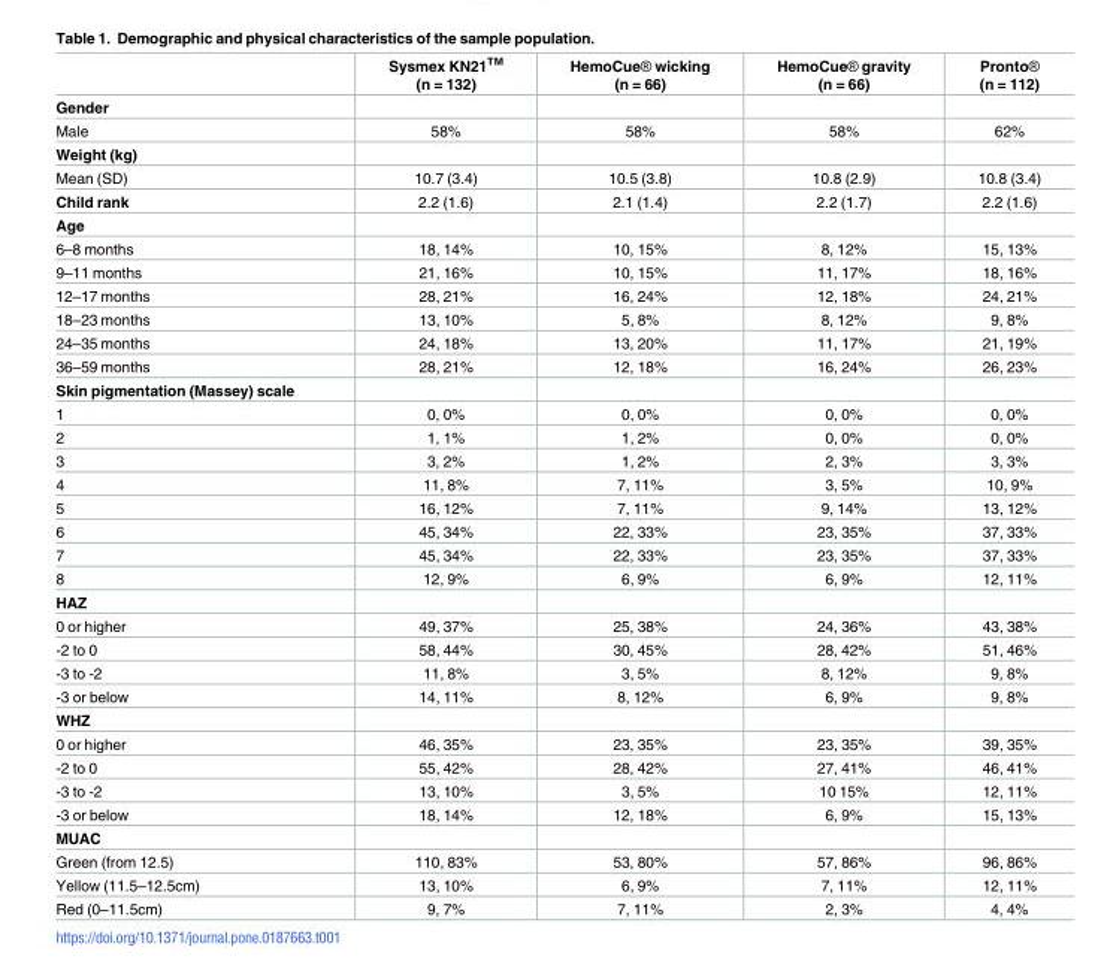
<table><thead><tr><td></td><td>Sysmex KN21<sup>TM</sup> (n = 132)</td><td>HemoCue® wicking (n = 66)</td><td>HemoCue® gravity (n = 66)</td><td>Pronto® (n = 112)</td></tr></thead><tbody><tr><td colspan="5">Gender</td></tr><tr><td>Male</td><td>58%</td><td>58%</td><td>58%</td><td>62%</td></tr><tr><td colspan="5">Weight (kg)</td></tr><tr><td>Mean (SD)</td><td>10.7 (3.4)</td><td>10.5 (3.8)</td><td>10.8 (2.9)</td><td>10.8 (3.4)</td></tr><tr><td>Child rank</td><td>2.2 (1.6)</td><td>2.1 (1.4)</td><td>2.2 (1.7)</td><td>2.2 (1.6)</td></tr><tr><td colspan="5">Age</td></tr><tr><td>6–8 months</td><td>18, 14%</td><td>10, 15%</td><td>8, 12%</td><td>15, 13%</td></tr><tr><td>9–11 months</td><td>21, 16%</td><td>10, 15%</td><td>11, 17%</td><td>18, 16%</td></tr><tr><td>12–17 months</td><td>28, 21%</td><td>16, 24%</td><td>12, 18%</td><td>24, 21%</td></tr><tr><td>18–23 months</td><td>13, 10%</td><td>5, 8%</td><td>8, 12%</td><td>9, 8%</td></tr><tr><td>24–35 months</td><td>24, 18%</td><td>13, 20%</td><td>11, 17%</td><td>21, 19%</td></tr><tr><td>36–59 months</td><td>28, 21%</td><td>12, 18%</td><td>16, 24%</td><td>26, 23%</td></tr><tr><td colspan="5">Skin pigmentation (Massey) scale</td></tr><tr><td>1</td><td>0, 0%</td><td>0, 0%</td><td>0, 0%</td><td>0, 0%</td></tr><tr><td>2</td><td>1, 1%</td><td>1, 2%</td><td>0, 0%</td><td>0, 0%</td></tr><tr><td>3</td><td>3, 2%</td><td>1, 2%</td><td>2, 3%</td><td>3, 3%</td></tr><tr><td>4</td><td>11, 8%</td><td>7, 11%</td><td>3, 5%</td><td>10, 9%</td></tr><tr><td>5</td><td>16, 12%</td><td>7, 11%</td><td>9, 14%</td><td>13, 12%</td></tr><tr><td>6</td><td>45, 34%</td><td>22, 33%</td><td>23, 35%</td><td>37, 33%</td></tr><tr><td>7</td><td>45, 34%</td><td>22, 33%</td><td>23, 35%</td><td>37, 33%</td></tr><tr><td>8</td><td>12, 9%</td><td>6, 9%</td><td>6, 9%</td><td>12, 11%</td></tr><tr><td colspan="5">HAZ</td></tr><tr><td>0 or higher</td><td>49, 37%</td><td>25, 38%</td><td>24, 36%</td><td>43, 38%</td></tr><tr><td>-2 to 0</td><td>58, 44%</td><td>30, 45%</td><td>28, 42%</td><td>51, 46%</td></tr><tr><td>-3 to -2</td><td>11, 8%</td><td>3, 5%</td><td>8, 12%</td><td>9, 8%</td></tr><tr><td>-3 or below</td><td>14, 11%</td><td>8, 12%</td><td>6, 9%</td><td>9, 8%</td></tr><tr><td colspan="5">WHZ</td></tr><tr><td>0 or higher</td><td>46, 35%</td><td>23, 35%</td><td>23, 35%</td><td>39, 35%</td></tr><tr><td>-2 to 0</td><td>55, 42%</td><td>28, 42%</td><td>27, 41%</td><td>46, 41%</td></tr><tr><td>-3 to -2</td><td>13, 10%</td><td>3, 5%</td><td>10 15%</td><td>12, 11%</td></tr><tr><td>-3 or below</td><td>18, 14%</td><td>12, 18%</td><td>6, 9%</td><td>15, 13%</td></tr><tr><td colspan="5">MUAC</td></tr><tr><td>Green (from 12.5)</td><td>110, 83%</td><td>53, 80%</td><td>57, 86%</td><td>96, 86%</td></tr><tr><td>Yellow (11.5–12.5cm)</td><td>13, 10%</td><td>6, 9%</td><td>7, 11%</td><td>12, 11%</td></tr><tr><td>Red (0–11.5cm)</td><td>9, 7%</td><td>7, 11%</td><td>2, 3%</td><td>4, 4%</td></tr></tbody></table>